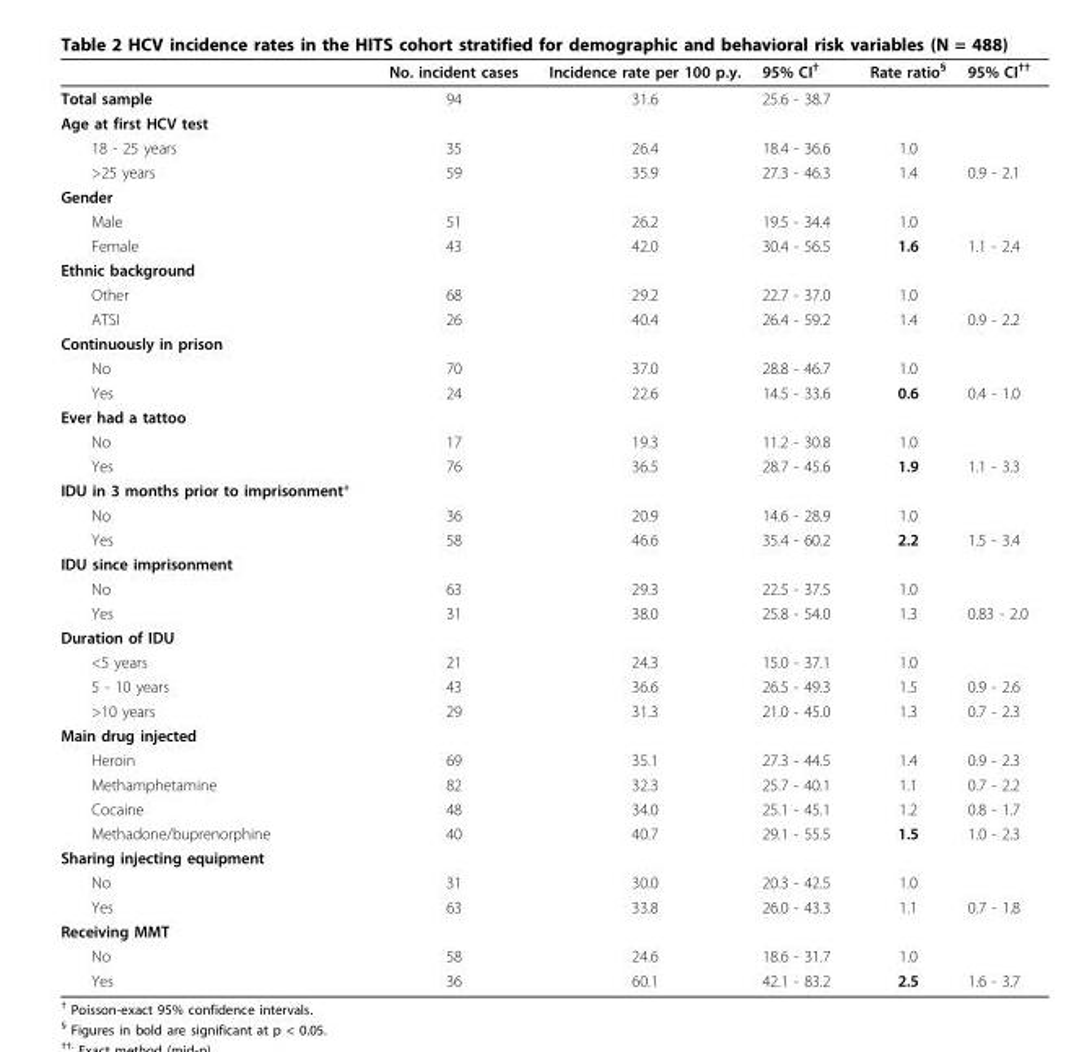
<table><thead><tr><td></td><td>No. incident cases</td><td>Incidence rate per 100 p.y.</td><td>95% CI<sup>†</sup></td><td>Rate ratio<sup>§</sup></td><td>95% CI<sup>††</sup></td></tr></thead><tbody><tr><td>Total sample</td><td>94</td><td>31.6</td><td>25.6 - 38.7</td><td></td><td></td></tr><tr><td colspan="6">Age at first HCV test</td></tr><tr><td>18 - 25 years</td><td>35</td><td>26.4</td><td>18.4 - 36.6</td><td>1.0</td><td></td></tr><tr><td>&gt;25 years</td><td>59</td><td>35.9</td><td>27.3 - 46.3</td><td>1.4</td><td>0.9 - 2.1</td></tr><tr><td colspan="6">Gender</td></tr><tr><td>Male</td><td>51</td><td>26.2</td><td>19.5 - 34.4</td><td>1.0</td><td></td></tr><tr><td>Female</td><td>43</td><td>42.0</td><td>30.4 - 56.5</td><td>1.6</td><td>1.1 - 2.4</td></tr><tr><td colspan="6">Ethnic background</td></tr><tr><td>Other</td><td>68</td><td>29.2</td><td>22.7 - 37.0</td><td>1.0</td><td></td></tr><tr><td>ATSI</td><td>26</td><td>40.4</td><td>26.4 - 59.2</td><td>1.4</td><td>0.9 - 2.2</td></tr><tr><td colspan="6">Continuously in prison</td></tr><tr><td>No</td><td>70</td><td>37.0</td><td>28.8 - 46.7</td><td>1.0</td><td></td></tr><tr><td>Yes</td><td>24</td><td>22.6</td><td>14.5 - 33.6</td><td>0.6</td><td>0.4 - 1.0</td></tr><tr><td colspan="6">Ever had a tattoo</td></tr><tr><td>No</td><td>17</td><td>19.3</td><td>11.2 - 30.8</td><td>1.0</td><td></td></tr><tr><td>Yes</td><td>76</td><td>36.5</td><td>28.7 - 45.6</td><td>1.9</td><td>1.1 - 3.3</td></tr><tr><td colspan="6">IDU in 3 months prior to imprisonment*</td></tr><tr><td>No</td><td>36</td><td>20.9</td><td>14.6 - 28.9</td><td>1.0</td><td></td></tr><tr><td>Yes</td><td>58</td><td>46.6</td><td>35.4 - 60.2</td><td>2.2</td><td>1.5 - 3.4</td></tr><tr><td colspan="6">IDU since imprisonment</td></tr><tr><td>No</td><td>63</td><td>29.3</td><td>22.5 - 37.5</td><td>1.0</td><td></td></tr><tr><td>Yes</td><td>31</td><td>38.0</td><td>25.8 - 54.0</td><td>1.3</td><td>0.83 - 2.0</td></tr><tr><td colspan="6">Duration of IDU</td></tr><tr><td>&lt;5 years</td><td>21</td><td>24.3</td><td>15.0 - 37.1</td><td>1.0</td><td></td></tr><tr><td>5 - 10 years</td><td>43</td><td>36.6</td><td>26.5 - 49.3</td><td>1.5</td><td>0.9 - 2.6</td></tr><tr><td>&gt;10 years</td><td>29</td><td>31.3</td><td>21.0 - 45.0</td><td>1.3</td><td>0.7 - 2.3</td></tr><tr><td colspan="6">Main drug injected</td></tr><tr><td>Heroin</td><td>69</td><td>35.1</td><td>27.3 - 44.5</td><td>1.4</td><td>0.9 - 2.3</td></tr><tr><td>Methamphetamine</td><td>82</td><td>32.3</td><td>25.7 - 40.1</td><td>1.1</td><td>0.7 - 2.2</td></tr><tr><td>Cocaine</td><td>48</td><td>34.0</td><td>25.1 - 45.1</td><td>1.2</td><td>0.8 - 1.7</td></tr><tr><td>Methadone/buprenorphine</td><td>40</td><td>40.7</td><td>29.1 - 55.5</td><td>1.5</td><td>1.0 - 2.3</td></tr><tr><td colspan="6">Sharing injecting equipment</td></tr><tr><td>No</td><td>31</td><td>30.0</td><td>20.3 - 42.5</td><td>1.0</td><td></td></tr><tr><td>Yes</td><td>63</td><td>33.8</td><td>26.0 - 43.3</td><td>1.1</td><td>0.7 - 1.8</td></tr><tr><td colspan="6">Receiving MMT</td></tr><tr><td>No</td><td>58</td><td>24.6</td><td>18.6 - 31.7</td><td>1.0</td><td></td></tr><tr><td>Yes</td><td>36</td><td>60.1</td><td>42.1 - 83.2</td><td>2.5</td><td>1.6 - 3.7</td></tr></tbody></table>